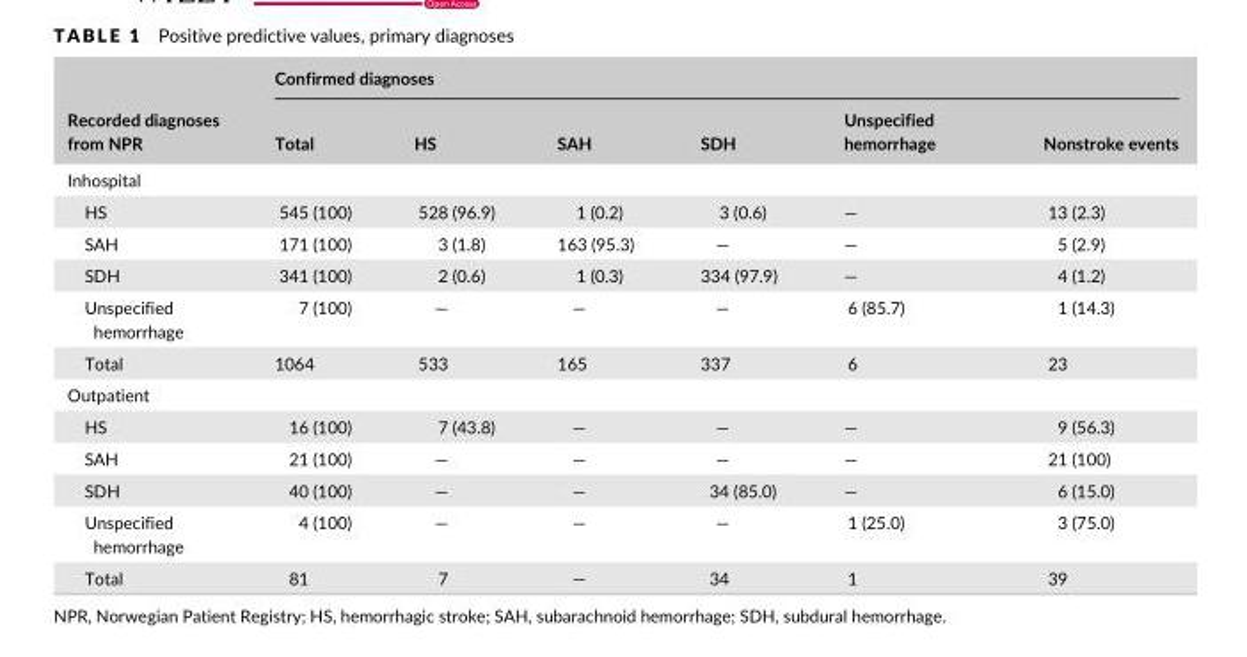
<table><thead><tr><td rowspan="2">Recorded diagnoses from NPR</td><td colspan="6">Confirmed diagnoses</td></tr><tr><td>Total</td><td>HS</td><td>SAH</td><td>SDH</td><td>Unspecified hemorrhage</td><td>Nonstroke events</td></tr></thead><tbody><tr><td colspan="7">Inhospital</td></tr><tr><td>HS</td><td>545 (100)</td><td>528 (96.9)</td><td>1 (0.2)</td><td>3 (0.6)</td><td>—</td><td>13 (2.3)</td></tr><tr><td>SAH</td><td>171 (100)</td><td>3 (1.8)</td><td>163 (95.3)</td><td>—</td><td>—</td><td>5 (2.9)</td></tr><tr><td>SDH</td><td>341 (100)</td><td>2 (0.6)</td><td>1 (0.3)</td><td>334 (97.9)</td><td>—</td><td>4 (1.2)</td></tr><tr><td>Unspecified hemorrhage</td><td>7 (100)</td><td>—</td><td>—</td><td>—</td><td>6 (85.7)</td><td>1 (14.3)</td></tr><tr><td>Total</td><td>1064</td><td>533</td><td>165</td><td>337</td><td>6</td><td>23</td></tr><tr><td colspan="7">Outpatient</td></tr><tr><td>HS</td><td>16 (100)</td><td>7 (43.8)</td><td>—</td><td>—</td><td>—</td><td>9 (56.3)</td></tr><tr><td>SAH</td><td>21 (100)</td><td>—</td><td>—</td><td>—</td><td>—</td><td>21 (100)</td></tr><tr><td>SDH</td><td>40 (100)</td><td>—</td><td>—</td><td>34 (85.0)</td><td>—</td><td>6 (15.0)</td></tr><tr><td>Unspecified hemorrhage</td><td>4 (100)</td><td>—</td><td>—</td><td>—</td><td>1 (25.0)</td><td>3 (75.0)</td></tr><tr><td>Total</td><td>81</td><td>7</td><td>—</td><td>34</td><td>1</td><td>39</td></tr></tbody></table>